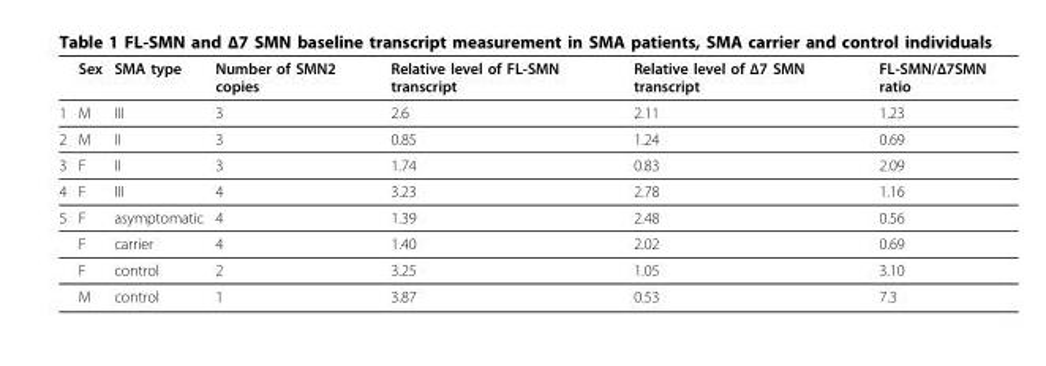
<table><thead><tr><td></td><td>Sex</td><td>SMA type</td><td>Number of SMN2 copies</td><td>Relative level of FL-SMN transcript</td><td>Relative level of Δ7 SMN transcript</td><td>FL-SMN/Δ7SMN ratio</td></tr></thead><tbody><tr><td>1</td><td>M</td><td>III</td><td>3</td><td>2.6</td><td>2.11</td><td>1.23</td></tr><tr><td>2</td><td>M</td><td>II</td><td>3</td><td>0.85</td><td>1.24</td><td>0.69</td></tr><tr><td>3</td><td>F</td><td>II</td><td>3</td><td>1.74</td><td>0.83</td><td>2.09</td></tr><tr><td>4</td><td>F</td><td>III</td><td>4</td><td>3.23</td><td>2.78</td><td>1.16</td></tr><tr><td rowspan="4">5</td><td>F</td><td>asymptomatic</td><td>4</td><td>1.39</td><td>2.48</td><td>0.56</td></tr><tr><td>F</td><td>carrier</td><td>4</td><td>1.40</td><td>2.02</td><td>0.69</td></tr><tr><td>F</td><td>control</td><td>2</td><td>3.25</td><td>1.05</td><td>3.10</td></tr><tr><td>M</td><td>control</td><td>1</td><td>3.87</td><td>0.53</td><td>7.3</td></tr></tbody></table>